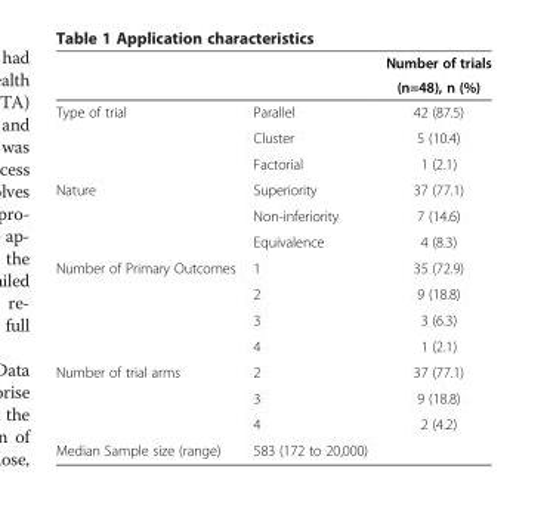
<table><thead><tr><td rowspan="2"></td><td rowspan="2"></td><td rowspan="2">Number of trials (n=48), n (%)</td></tr><tr></tr></thead><tbody><tr><td rowspan="3">Type of trial</td><td>Parallel</td><td>42 (87.5)</td></tr><tr><td>Cluster</td><td>5 (10.4)</td></tr><tr><td>Factorial</td><td>1 (2.1)</td></tr><tr><td rowspan="3">Nature</td><td>Superiority</td><td>37 (77.1)</td></tr><tr><td>Non-inferiority</td><td>7 (14.6)</td></tr><tr><td>Equivalence</td><td>4 (8.3)</td></tr><tr><td rowspan="4">Number of Primary Outcomes</td><td>1</td><td>35 (72.9)</td></tr><tr><td>2</td><td>9 (18.8)</td></tr><tr><td>3</td><td>3 (6.3)</td></tr><tr><td>4</td><td>1 (2.1)</td></tr><tr><td rowspan="3">Number of trial arms</td><td>2</td><td>37 (77.1)</td></tr><tr><td>3</td><td>9 (18.8)</td></tr><tr><td>4</td><td>2 (4.2)</td></tr><tr><td>Median Sample size (range)</td><td>583 (172 to 20,000)</td><td></td></tr></tbody></table>